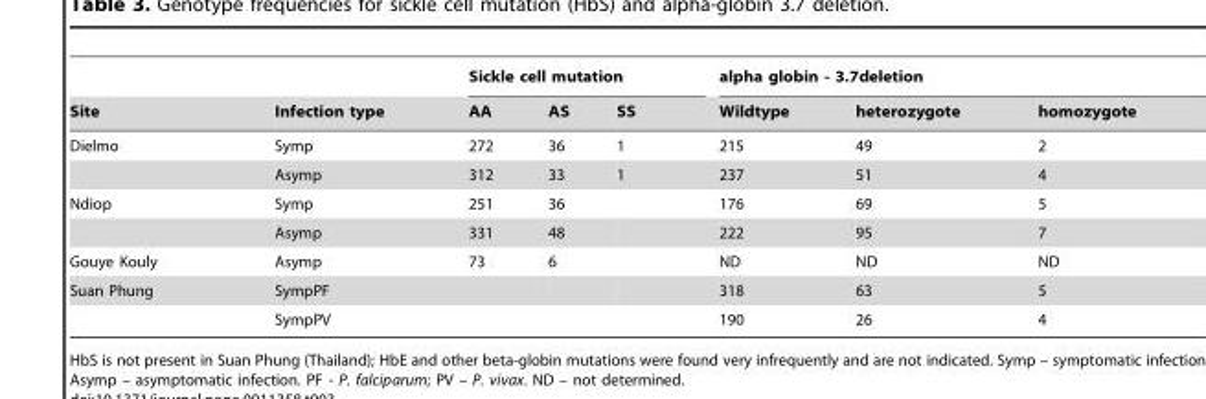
<table><thead><tr><td rowspan="2">Site</td><td rowspan="2">Infection type</td><td colspan="3">Sickle cell mutation</td><td colspan="3">alpha globin - 3.7deletion</td></tr><tr><td>AA</td><td>AS</td><td>SS</td><td>Wildtype</td><td>heterozygote</td><td>homozygote</td></tr></thead><tbody><tr><td rowspan="2">Dielmo</td><td>Symp</td><td>272</td><td>36</td><td>1</td><td>215</td><td>49</td><td>2</td></tr><tr><td>Asymp</td><td>312</td><td>33</td><td>1</td><td>237</td><td>51</td><td>4</td></tr><tr><td rowspan="2">Ndiop</td><td>Symp</td><td>251</td><td>36</td><td></td><td>176</td><td>69</td><td>5</td></tr><tr><td>Asymp</td><td>331</td><td>48</td><td></td><td>222</td><td>95</td><td>7</td></tr><tr><td>Gouye Kouly</td><td>Asymp</td><td>73</td><td>6</td><td></td><td>ND</td><td>ND</td><td>ND</td></tr><tr><td rowspan="2">Suan Phung</td><td>SympPF</td><td></td><td></td><td></td><td>318</td><td>63</td><td>5</td></tr><tr><td>SympPV</td><td></td><td></td><td></td><td>190</td><td>26</td><td>4</td></tr></tbody></table>